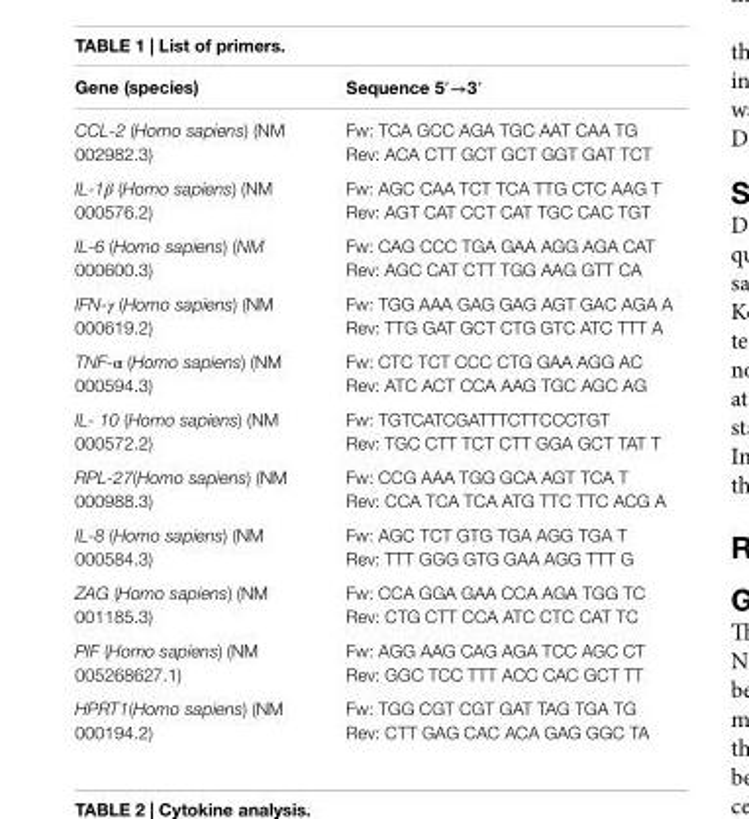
<table><thead><tr><td>gene (species)</td><td>sequence 5′→3′</td></tr></thead><tbody><tr><td rowspan="2">CCL-2 (Homo sapiens) (NM 002982.3)</td><td>Fw: TCA GCC AGA TGC AAT CAA TG</td></tr><tr><td>Rev: ACA CTT GCT GCT GGT GAT TCT</td></tr><tr><td rowspan="2">IL-1β (Homo sapiens) (NM 000576.2)</td><td>Fw: AGC CAA TCT TCA TTG CTC AAG T</td></tr><tr><td>Rev: AGT CAT CCT CAT TGC CAC TGT</td></tr><tr><td rowspan="2">IL-6 (Homo sapiens) (NM 000600.3)</td><td>Fw: CAG CCC TGA GAA AGG AGA CAT</td></tr><tr><td>Rev: AGC CAT CTT TGG AAG GTT CA</td></tr><tr><td rowspan="2">IFN-γ (Homo sapiens) (NM 000619.2)</td><td>Fw: TGG AAA GAG GAG AGT GAC AGA A</td></tr><tr><td>Rev: TTG GAT GCT CTG GTC ATC TTT A</td></tr><tr><td rowspan="2">TNF-α (Homo sapiens) (NM 000594.3)</td><td>Fw: CTC TCT CCC CTG GAA AGG AC</td></tr><tr><td>Rev: ATC ACT CCA AAG TGC AGC AG</td></tr><tr><td rowspan="2">IL- 10 (Homo sapiens) (NM 000572.2)</td><td>Fw: TGTCATCGATTTCTTCCCTGT</td></tr><tr><td>Rev: TGC CTT TCT CTT GGA GCT TAT T</td></tr><tr><td rowspan="2">RPL-27(Homo sapiens) (NM 000988.3)</td><td>Fw: CCG AAA TGG GCA AGT TCA T</td></tr><tr><td>Rev: CCA TCA TCA ATG TTC TTC ACG A</td></tr><tr><td rowspan="2">IL-8 (Homo sapiens) (NM 000584.3)</td><td>Fw: AGC TCT GTG TGA AGG TGA T</td></tr><tr><td>Rev: TTT GGG GTG GAA AGG TTT G</td></tr><tr><td rowspan="2">ZAG (Homo sapiens) (NM 001185.3)</td><td>Fw: CCA GGA GAA CCA AGA TGG TC</td></tr><tr><td>Rev: CTG CTT CCA ATC CTC CAT TC</td></tr><tr><td rowspan="2">PIF (Homo sapiens) (NM 005268627.1)</td><td>Fw: AGG AAG CAG AGA TCC AGC CT</td></tr><tr><td>Rev: GGC TCC TTT ACC CAC GCT TT</td></tr><tr><td rowspan="2">HPRT1(Homo sapiens) (NM 000194.2)</td><td>Fw: TGG CGT CGT GAT TAG TGA TG</td></tr><tr><td>Rev: CTT GAG CAC ACA GAG GGC TA</td></tr></tbody></table>